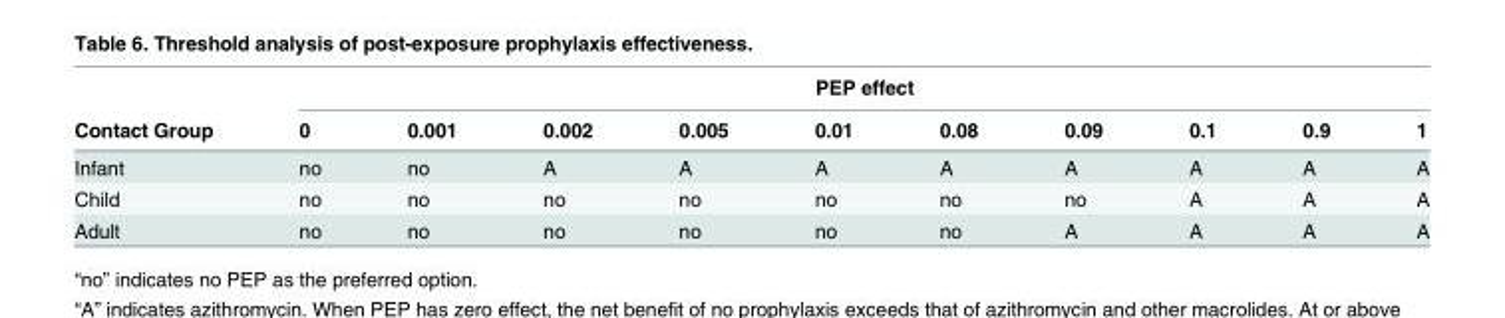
<table><thead><tr><td rowspan="2">Contact Group</td><td colspan="10">PEP effect</td></tr><tr><td>0</td><td>0.001</td><td>0.002</td><td>0.005</td><td>0.01</td><td>0.08</td><td>0.09</td><td>0.1</td><td>0.9</td><td>1</td></tr></thead><tbody><tr><td>Infant</td><td>no</td><td>no</td><td>A</td><td>A</td><td>A</td><td>A</td><td>A</td><td>A</td><td>A</td><td>A</td></tr><tr><td>Child</td><td>no</td><td>no</td><td>no</td><td>no</td><td>no</td><td>no</td><td>no</td><td>A</td><td>A</td><td>A</td></tr><tr><td>Adult</td><td>no</td><td>no</td><td>no</td><td>no</td><td>no</td><td>no</td><td>A</td><td>A</td><td>A</td><td>A</td></tr></tbody></table>